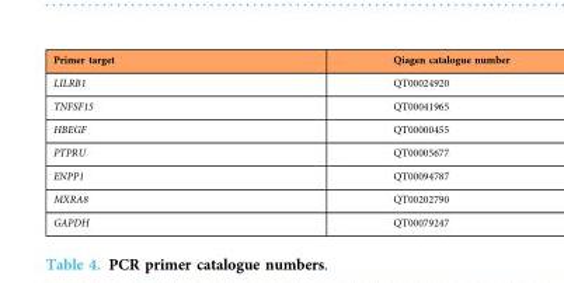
<table><thead><tr><td>Primer target</td><td>Qiagen catalogue number</td></tr></thead><tbody><tr><td>LILRB1</td><td>QT00024920</td></tr><tr><td>TNFSF15</td><td>QT00041965</td></tr><tr><td>HBEGF</td><td>QT00000455</td></tr><tr><td>PTPRU</td><td>QT00005677</td></tr><tr><td>ENPP1</td><td>QT00094787</td></tr><tr><td>MXRA8</td><td>QT00202790</td></tr><tr><td>GAPDH</td><td>QT00079247</td></tr></tbody></table>